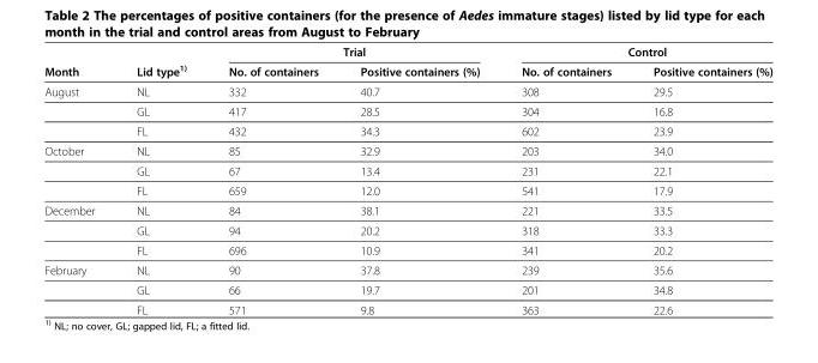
<table><thead><tr><td rowspan="2">Month</td><td rowspan="2">Lid type<sup>1)</sup></td><td colspan="2">Trial</td><td colspan="2">Control</td></tr><tr><td>No. of containers</td><td>Positive containers (%)</td><td>No. of containers</td><td>Positive containers (%)</td></tr></thead><tbody><tr><td rowspan="3">August</td><td>NL</td><td>332</td><td>40.7</td><td>308</td><td>29.5</td></tr><tr><td>GL</td><td>417</td><td>28.5</td><td>304</td><td>16.8</td></tr><tr><td>FL</td><td>432</td><td>34.3</td><td>602</td><td>23.9</td></tr><tr><td rowspan="3">October</td><td>NL</td><td>85</td><td>32.9</td><td>203</td><td>34.0</td></tr><tr><td>GL</td><td>67</td><td>13.4</td><td>231</td><td>22.1</td></tr><tr><td>FL</td><td>659</td><td>12.0</td><td>541</td><td>17.9</td></tr><tr><td rowspan="3">December</td><td>NL</td><td>84</td><td>38.1</td><td>221</td><td>33.5</td></tr><tr><td>GL</td><td>94</td><td>20.2</td><td>318</td><td>33.3</td></tr><tr><td>FL</td><td>696</td><td>10.9</td><td>341</td><td>20.2</td></tr><tr><td rowspan="3">February</td><td>NL</td><td>90</td><td>37.8</td><td>239</td><td>35.6</td></tr><tr><td>GL</td><td>66</td><td>19.7</td><td>201</td><td>34.8</td></tr><tr><td>FL</td><td>571</td><td>9.8</td><td>363</td><td>22.6</td></tr></tbody></table>